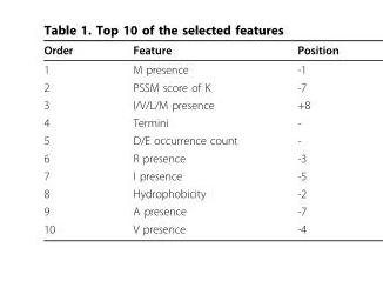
<table><thead><tr><td>Order</td><td>Feature</td><td>Position</td></tr></thead><tbody><tr><td>1</td><td>M presence</td><td>-1</td></tr><tr><td>2</td><td>PSSM score of K</td><td>-7</td></tr><tr><td>3</td><td>I/V/L/M presence</td><td>+8</td></tr><tr><td>4</td><td>Termini</td><td>-</td></tr><tr><td>5</td><td>D/E occurrence count</td><td>-</td></tr><tr><td>6</td><td>R presence</td><td>-3</td></tr><tr><td>7</td><td>I presence</td><td>-5</td></tr><tr><td>8</td><td>Hydrophobicity</td><td>-2</td></tr><tr><td>9</td><td>A presence</td><td>-7</td></tr><tr><td>10</td><td>V presence</td><td>-4</td></tr></tbody></table>